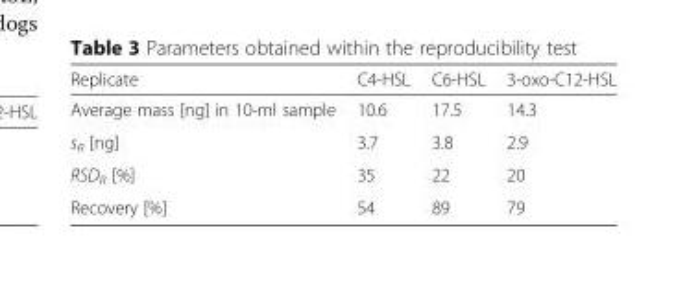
<table><thead><tr><td>Replicate</td><td>C4-HSL</td><td>C6-HSL</td><td>3-oxo-C12-HSL</td></tr></thead><tbody><tr><td>Average mass [ng] in 10-ml sample</td><td>10.6</td><td>17.5</td><td>14.3</td></tr><tr><td>s<sub>R</sub> [ng]</td><td>3.7</td><td>3.8</td><td>2.9</td></tr><tr><td>RSD<sub>R</sub> [%]</td><td>35</td><td>22</td><td>20</td></tr><tr><td>Recovery [%]</td><td>54</td><td>89</td><td>79</td></tr></tbody></table>